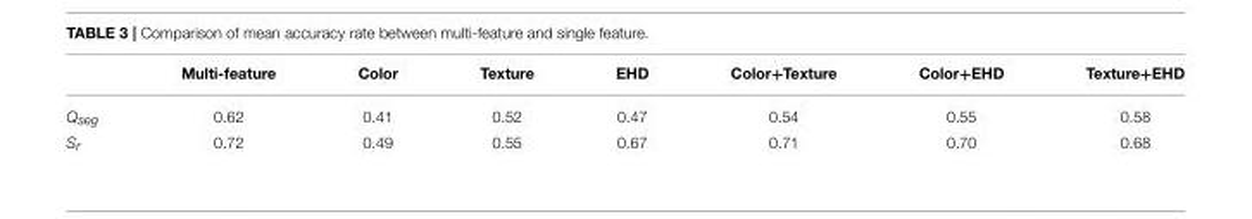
<table><thead><tr><td></td><td>Multi-feature</td><td>Color</td><td>Texture</td><td>EHD</td><td>Color+Texture</td><td>Color+EHD</td><td>Texture+EHD</td></tr></thead><tbody><tr><td>Qseg</td><td>0.62</td><td>0.41</td><td>0.52</td><td>0.47</td><td>0.54</td><td>0.55</td><td>0.58</td></tr><tr><td>Sr</td><td>0.72</td><td>0.49</td><td>0.55</td><td>0.67</td><td>0.71</td><td>0.70</td><td>0.68</td></tr></tbody></table>